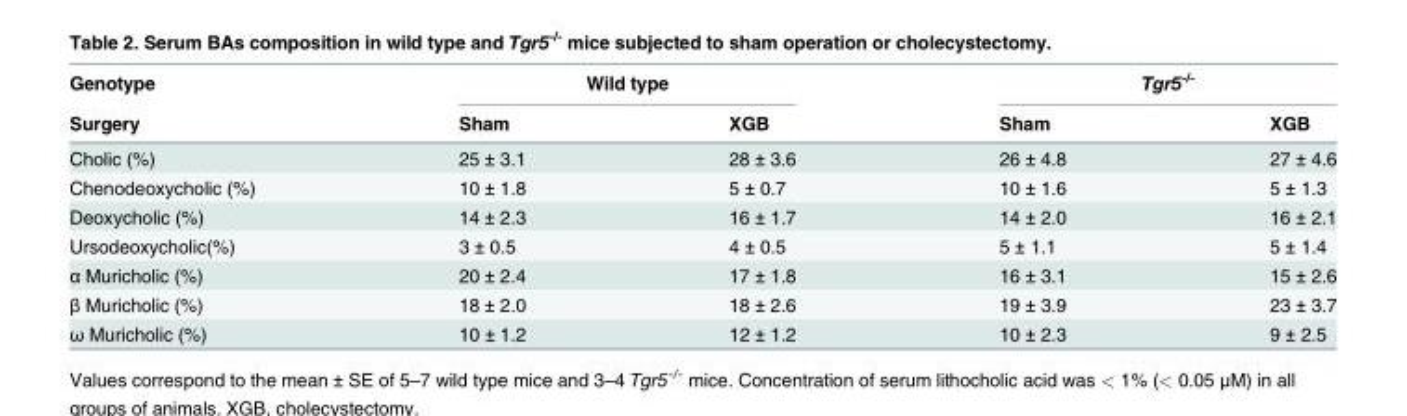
<table><thead><tr><td rowspan="2">Genotype Surgery</td><td colspan="2">Wild type</td><td colspan="2">Tgr5<sup>-/-</sup></td></tr><tr><td>Sham</td><td>XGB</td><td>Sham</td><td>XGB</td></tr></thead><tbody><tr><td>Cholic (%)</td><td>25 ± 3.1</td><td>28 ± 3.6</td><td>26 ± 4.8</td><td>27 ± 4.6</td></tr><tr><td>Chenodeoxycholic (%)</td><td>10 ± 1.8</td><td>5 ± 0.7</td><td>10 ± 1.6</td><td>5 ± 1.3</td></tr><tr><td>Deoxycholic (%)</td><td>14 ± 2.3</td><td>16 ± 1.7</td><td>14 ± 2.0</td><td>16 ± 2.1</td></tr><tr><td>Ursodeoxycholic(%)</td><td>3 ± 0.5</td><td>4 ± 0.5</td><td>5 ± 1.1</td><td>5 ± 1.4</td></tr><tr><td>α Muricholic (%)</td><td>20 ± 2.4</td><td>17 ± 1.8</td><td>16 ± 3.1</td><td>15 ± 2.6</td></tr><tr><td>β Muricholic (%)</td><td>18 ± 2.0</td><td>18 ± 2.6</td><td>19 ± 3.9</td><td>23 ± 3.7</td></tr><tr><td>ω Muricholic (%)</td><td>10 ± 1.2</td><td>12 ± 1.2</td><td>10 ± 2.3</td><td>9 ± 2.5</td></tr></tbody></table>